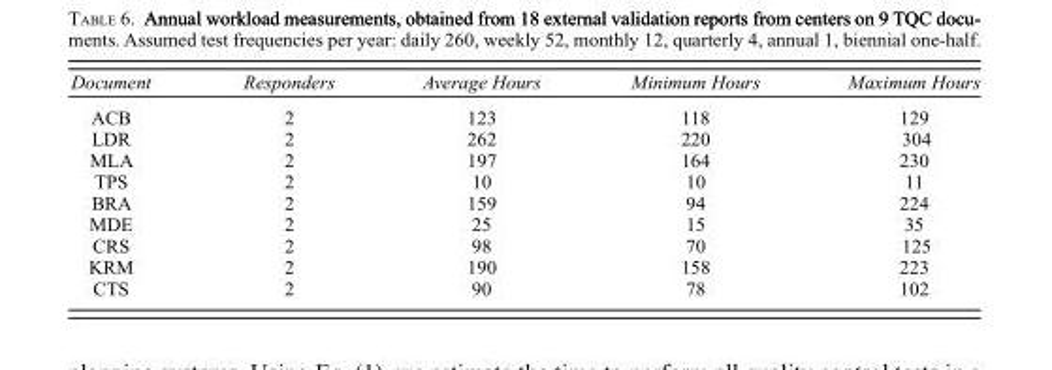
<table><thead><tr><td>Document</td><td>Responders</td><td>Average Hours</td><td>Minimum Hours</td><td>Maximum Hours</td></tr></thead><tbody><tr><td>ACB</td><td>2</td><td>123</td><td>118</td><td>129</td></tr><tr><td>LDR</td><td>2</td><td>262</td><td>220</td><td>304</td></tr><tr><td>MLA</td><td>2</td><td>197</td><td>164</td><td>230</td></tr><tr><td>TPS</td><td>2</td><td>10</td><td>10</td><td>11</td></tr><tr><td>BRA</td><td>2</td><td>159</td><td>94</td><td>224</td></tr><tr><td>MDE</td><td>2</td><td>25</td><td>15</td><td>35</td></tr><tr><td>CRS</td><td>2</td><td>98</td><td>70</td><td>125</td></tr><tr><td>KRM</td><td>2</td><td>190</td><td>158</td><td>223</td></tr><tr><td>CTS</td><td>2</td><td>90</td><td>78</td><td>102</td></tr></tbody></table>